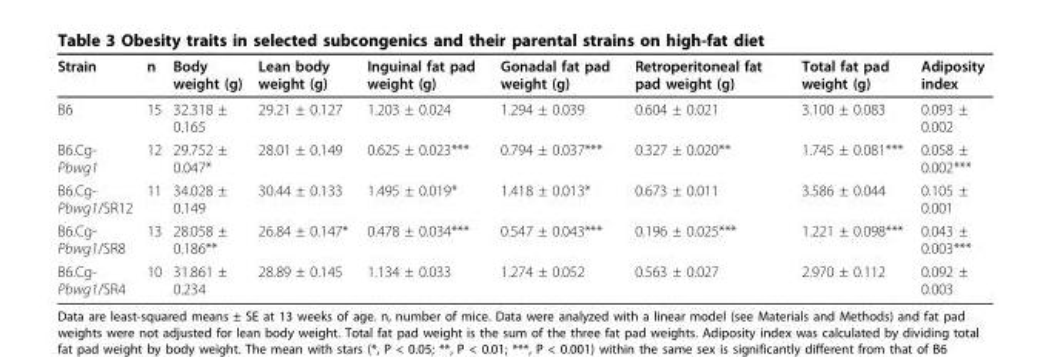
<table><thead><tr><td>Strain</td><td>n</td><td>Body weight (g)</td><td>Lean body weight (g)</td><td>Inguinal fat pad weight (g)</td><td>Gonadal fat pad weight (g)</td><td>Retroperitoneal fat pad weight (g)</td><td>Total fat pad weight (g)</td><td>Adiposity index</td></tr></thead><tbody><tr><td>B6</td><td>15</td><td>32.318 ± 0.165</td><td>29.21 ± 0.127</td><td>1.203 ± 0.024</td><td>1.294 ± 0.039</td><td>0.604 ± 0.021</td><td>3.100 ± 0.083</td><td>0.093 ± 0.002</td></tr><tr><td>B6.Cg- Pbwg1</td><td>12</td><td>29.752 ± 0.047*</td><td>28.01 ± 0.149</td><td>0.625 ± 0.023***</td><td>0.794 ± 0.037***</td><td>0.327 ± 0.020**</td><td>1.745 ± 0.081***</td><td>0.058 ± 0.002***</td></tr><tr><td>B6.Cg- Pbwg1/SR12</td><td>11</td><td>34.028 ± 0.149</td><td>30.44 ± 0.133</td><td>1.495 ± 0.019*</td><td>1.418 ± 0.013*</td><td>0.673 ± 0.011</td><td>3.586 ± 0.044</td><td>0.105 ± 0.001</td></tr><tr><td>B6.Cg- Pbwg1/SR8</td><td>13</td><td>28.058 ± 0.186**</td><td>26.84 ± 0.147*</td><td>0.478 ± 0.034***</td><td>0.547 ± 0.043***</td><td>0.196 ± 0.025***</td><td>1.221 ± 0.098***</td><td>0.043 ± 0.003***</td></tr><tr><td>B6.Cg- Pbwg1/SR4</td><td>10</td><td>31.861 ± 0.234</td><td>28.89 ± 0.145</td><td>1.134 ± 0.033</td><td>1.274 ± 0.052</td><td>0.563 ± 0.027</td><td>2.970 ± 0.112</td><td>0.092 ± 0.003</td></tr></tbody></table>